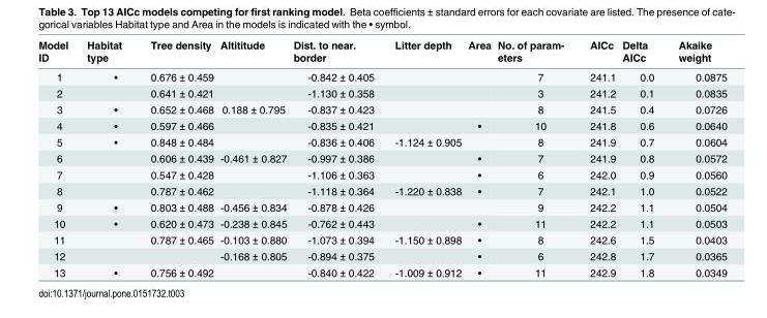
<table><thead><tr><td>Model ID</td><td>Habitat type</td><td>Tree density</td><td>Altititude</td><td>Dist. to near. border</td><td>Litter depth</td><td>Area</td><td>No. of param- eters</td><td>AICc</td><td>Delta AICc</td><td>Akaike weight</td></tr></thead><tbody><tr><td>1</td><td>•</td><td>0.676 ± 0.459</td><td></td><td>-0.842 ± 0.405</td><td></td><td></td><td>7</td><td>241.1</td><td>0.0</td><td>0.0875</td></tr><tr><td>2</td><td></td><td>0.641 ± 0.421</td><td></td><td>-1.130 ± 0.358</td><td></td><td></td><td>3</td><td>241.2</td><td>0.1</td><td>0.0835</td></tr><tr><td>3</td><td>•</td><td>0.652 ± 0.468</td><td>0.188 ± 0.795</td><td>-0.837 ± 0.423</td><td></td><td></td><td>8</td><td>241.5</td><td>0.4</td><td>0.0726</td></tr><tr><td>4</td><td>•</td><td>0.597 ± 0.466</td><td></td><td>-0.835 ± 0.421</td><td></td><td>•</td><td>10</td><td>241.8</td><td>0.6</td><td>0.0640</td></tr><tr><td>5</td><td>•</td><td>0.848 ± 0.484</td><td></td><td>-0.836 ± 0.406</td><td>-1.124 ± 0.905</td><td></td><td>8</td><td>241.9</td><td>0.7</td><td>0.0604</td></tr><tr><td>6</td><td></td><td>0.606 ± 0.439</td><td>-0.461 ± 0.827</td><td>-0.997 ± 0.386</td><td></td><td>•</td><td>7</td><td>241.9</td><td>0.8</td><td>0.0572</td></tr><tr><td>7</td><td></td><td>0.547 ± 0.428</td><td></td><td>-1.106 ± 0.363</td><td></td><td>•</td><td>6</td><td>242.0</td><td>0.9</td><td>0.0560</td></tr><tr><td>8</td><td></td><td>0.787 ± 0.462</td><td></td><td>-1.118 ± 0.364</td><td>-1.220 ± 0.838</td><td>•</td><td>7</td><td>242.1</td><td>1.0</td><td>0.0522</td></tr><tr><td>9</td><td>•</td><td>0.803 ± 0.488</td><td>-0.456 ± 0.834</td><td>-0.878 ± 0.426</td><td></td><td></td><td>9</td><td>242.2</td><td>1.1</td><td>0.0504</td></tr><tr><td>10</td><td>•</td><td>0.620 ± 0.473</td><td>-0.238 ± 0.845</td><td>-0.762 ± 0.443</td><td></td><td>•</td><td>11</td><td>242.2</td><td>1.1</td><td>0.0503</td></tr><tr><td>11</td><td></td><td>0.787 ± 0.465</td><td>-0.103 ± 0.880</td><td>-1.073 ± 0.394</td><td>-1.150 ± 0.898</td><td>•</td><td>8</td><td>242.6</td><td>1.5</td><td>0.0403</td></tr><tr><td>12</td><td></td><td></td><td>-0.168 ± 0.805</td><td>-0.894 ± 0.375</td><td></td><td>•</td><td>6</td><td>242.8</td><td>1.7</td><td>0.0365</td></tr><tr><td>13</td><td>•</td><td>0.756 ± 0.492</td><td></td><td>-0.840 ± 0.422</td><td>-1.009 ± 0.912</td><td>•</td><td>11</td><td>242.9</td><td>1.8</td><td>0.0349</td></tr></tbody></table>